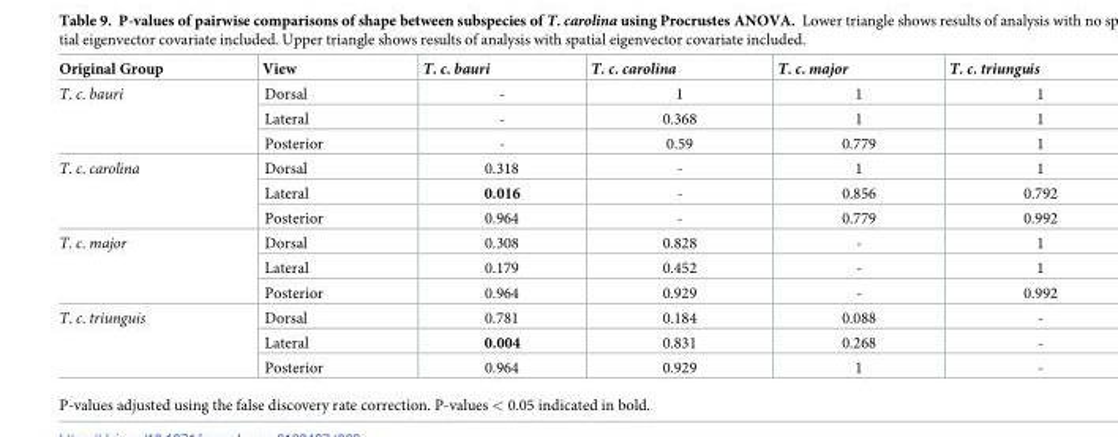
<table><thead><tr><td>Original Group</td><td>View</td><td>T. c. bauri</td><td>T. c. carolina</td><td>T. c. major</td><td>T. c. triunguis</td></tr></thead><tbody><tr><td rowspan="3">T. c. bauri</td><td>Dorsal</td><td>-</td><td>1</td><td>1</td><td>1</td></tr><tr><td>Lateral</td><td>-</td><td>0.368</td><td>1</td><td>1</td></tr><tr><td>Posterior</td><td>-</td><td>0.59</td><td>0.779</td><td>1</td></tr><tr><td rowspan="3">T. c. carolina</td><td>Dorsal</td><td>0.318</td><td>-</td><td>1</td><td>1</td></tr><tr><td>Lateral</td><td>0.016</td><td>-</td><td>0.856</td><td>0.792</td></tr><tr><td>Posterior</td><td>0.964</td><td>-</td><td>0.779</td><td>0.992</td></tr><tr><td rowspan="3">T. c. major</td><td>Dorsal</td><td>0.308</td><td>0.828</td><td>-</td><td>1</td></tr><tr><td>Lateral</td><td>0.179</td><td>0.452</td><td>-</td><td>1</td></tr><tr><td>Posterior</td><td>0.964</td><td>0.929</td><td>-</td><td>0.992</td></tr><tr><td rowspan="3">T. c. triunguis</td><td>Dorsal</td><td>0.781</td><td>0.184</td><td>0.088</td><td>-</td></tr><tr><td>Lateral</td><td>0.004</td><td>0.831</td><td>0.268</td><td>-</td></tr><tr><td>Posterior</td><td>0.964</td><td>0.929</td><td>1</td><td>-</td></tr></tbody></table>